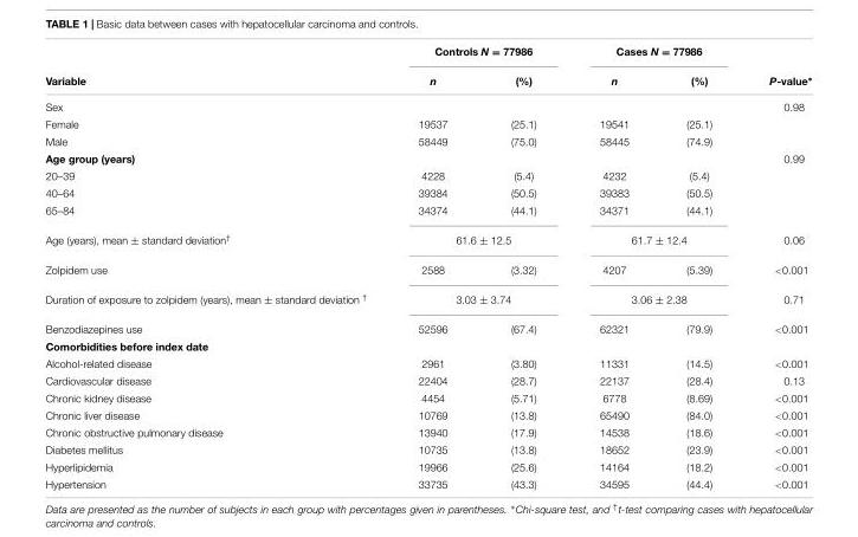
<table><thead><tr><td rowspan="2">Variable</td><td colspan="2">Controls N = 77986</td><td colspan="2">Cases N = 77986</td><td rowspan="2">P-value∗</td></tr><tr><td>n</td><td>(%)</td><td>n</td><td>(%)</td></tr></thead><tbody><tr><td>Sex</td><td></td><td></td><td></td><td></td><td>0.98</td></tr><tr><td>Female</td><td>19537</td><td>(25.1)</td><td>19541</td><td>(25.1)</td><td></td></tr><tr><td>Male</td><td>58449</td><td>(75.0)</td><td>58445</td><td>(74.9)</td><td></td></tr><tr><td>Age group (years)</td><td></td><td></td><td></td><td></td><td>0.99</td></tr><tr><td>20–39</td><td>4228</td><td>(5.4)</td><td>4232</td><td>(5.4)</td><td></td></tr><tr><td>40–64</td><td>39384</td><td>(50.5)</td><td>39383</td><td>(50.5)</td><td></td></tr><tr><td>65–84</td><td>34374</td><td>(44.1)</td><td>34371</td><td>(44.1)</td><td></td></tr><tr><td>Age (years), mean ± standard deviation<sup>†</sup></td><td colspan="2">61.6 ± 12.5</td><td colspan="2">61.7 ± 12.4</td><td>0.06</td></tr><tr><td>Zolpidem use</td><td>2588</td><td>(3.32)</td><td>4207</td><td>(5.39)</td><td>&lt;0.001</td></tr><tr><td>Duration of exposure to zolpidem (years), mean ± standard deviation <sup>†</sup></td><td colspan="2">3.03 ± 3.74</td><td colspan="2">3.06 ± 2.38</td><td>0.71</td></tr><tr><td>Benzodiazepines use</td><td>52596</td><td>(67.4)</td><td>62321</td><td>(79.9)</td><td>&lt;0.001</td></tr><tr><td colspan="6">Comorbidities before index date</td></tr><tr><td>Alcohol-related disease</td><td>2961</td><td>(3.80)</td><td>11331</td><td>(14.5)</td><td>&lt;0.001</td></tr><tr><td>Cardiovascular disease</td><td>22404</td><td>(28.7)</td><td>22137</td><td>(28.4)</td><td>0.13</td></tr><tr><td>Chronic kidney disease</td><td>4454</td><td>(5.71)</td><td>6778</td><td>(8.69)</td><td>&lt;0.001</td></tr><tr><td>Chronic liver disease</td><td>10769</td><td>(13.8)</td><td>65490</td><td>(84.0)</td><td>&lt;0.001</td></tr><tr><td>Chronic obstructive pulmonary disease</td><td>13940</td><td>(17.9)</td><td>14538</td><td>(18.6)</td><td>&lt;0.001</td></tr><tr><td>Diabetes mellitus</td><td>10735</td><td>(13.8)</td><td>18652</td><td>(23.9)</td><td>&lt;0.001</td></tr><tr><td>Hyperlipidemia</td><td>19966</td><td>(25.6)</td><td>14164</td><td>(18.2)</td><td>&lt;0.001</td></tr><tr><td>Hypertension</td><td>33735</td><td>(43.3)</td><td>34595</td><td>(44.4)</td><td>&lt;0.001</td></tr></tbody></table>